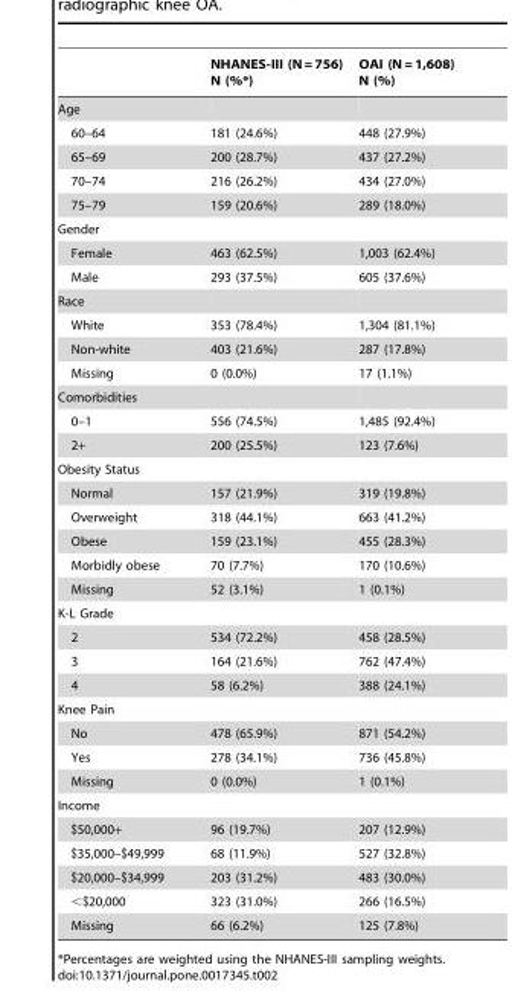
<table><thead><tr><td></td><td>NHANES-III (N = 756) N (%*)</td><td>OAI (N = 1,608) N (%)</td></tr></thead><tbody><tr><td colspan="3">Age</td></tr><tr><td>60–64</td><td>181 (24.6%)</td><td>448 (27.9%)</td></tr><tr><td>65–69</td><td>200 (28.7%)</td><td>437 (27.2%)</td></tr><tr><td>70–74</td><td>216 (26.2%)</td><td>434 (27.0%)</td></tr><tr><td>75–79</td><td>159 (20.6%)</td><td>289 (18.0%)</td></tr><tr><td colspan="3">Gender</td></tr><tr><td>Female</td><td>463 (62.5%)</td><td>1,003 (62.4%)</td></tr><tr><td>Male</td><td>293 (37.5%)</td><td>605 (37.6%)</td></tr><tr><td colspan="3">Race</td></tr><tr><td>White</td><td>353 (78.4%)</td><td>1,304 (81.1%)</td></tr><tr><td>Non-white</td><td>403 (21.6%)</td><td>287 (17.8%)</td></tr><tr><td>Missing</td><td>0 (0.0%)</td><td>17 (1.1%)</td></tr><tr><td colspan="3">Comorbidities</td></tr><tr><td>0–1</td><td>556 (74.5%)</td><td>1,485 (92.4%)</td></tr><tr><td>2+</td><td>200 (25.5%)</td><td>123 (7.6%)</td></tr><tr><td colspan="3">Obesity Status</td></tr><tr><td>Normal</td><td>157 (21.9%)</td><td>319 (19.8%)</td></tr><tr><td>Overweight</td><td>318 (44.1%)</td><td>663 (41.2%)</td></tr><tr><td>Obese</td><td>159 (23.1%)</td><td>455 (28.3%)</td></tr><tr><td>Morbidly obese</td><td>70 (7.7%)</td><td>170 (10.6%)</td></tr><tr><td>Missing</td><td>52 (3.1%)</td><td>1 (0.1%)</td></tr><tr><td colspan="3">K-L Grade</td></tr><tr><td>2</td><td>534 (72.2%)</td><td>458 (28.5%)</td></tr><tr><td>3</td><td>164 (21.6%)</td><td>762 (47.4%)</td></tr><tr><td>4</td><td>58 (6.2%)</td><td>388 (24.1%)</td></tr><tr><td colspan="3">Knee Pain</td></tr><tr><td>No</td><td>478 (65.9%)</td><td>871 (54.2%)</td></tr><tr><td>Yes</td><td>278 (34.1%)</td><td>736 (45.8%)</td></tr><tr><td>Missing</td><td>0 (0.0%)</td><td>1 (0.1%)</td></tr><tr><td colspan="3">Income</td></tr><tr><td>$50,000+</td><td>96 (19.7%)</td><td>207 (12.9%)</td></tr><tr><td>$35,000–$49,999</td><td>68 (11.9%)</td><td>527 (32.8%)</td></tr><tr><td>$20,000–$34,999</td><td>203 (31.2%)</td><td>483 (30.0%)</td></tr><tr><td>&lt;$20,000</td><td>323 (31.0%)</td><td>266 (16.5%)</td></tr><tr><td>Missing</td><td>66 (6.2%)</td><td>125 (7.8%)</td></tr></tbody></table>